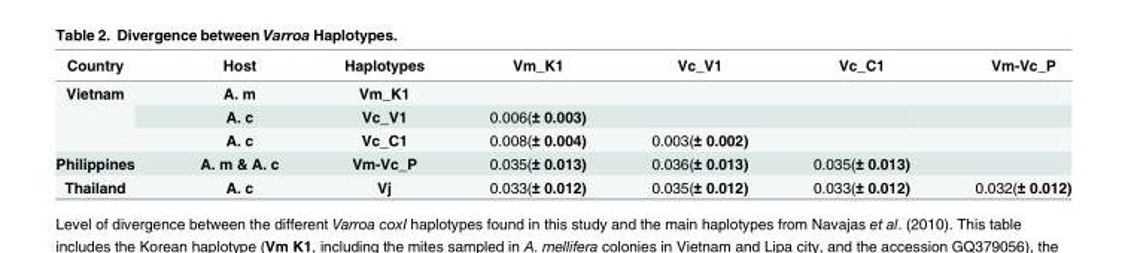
<table><thead><tr><td>Country</td><td>Host</td><td>Haplotypes</td><td>Vm_K1</td><td>Vc_V1</td><td>Vc_C1</td><td>Vm-Vc_P</td></tr></thead><tbody><tr><td rowspan="3">Vietnam</td><td>A. m</td><td>Vm_K1</td><td></td><td></td><td></td><td></td></tr><tr><td>A. c</td><td>Vc_V1</td><td>0.006(± 0.003)</td><td></td><td></td><td></td></tr><tr><td>A. c</td><td>Vc_C1</td><td>0.008(± 0.004)</td><td>0.003(± 0.002)</td><td></td><td></td></tr><tr><td>Philippines</td><td>A. m &amp; A. c</td><td>Vm-Vc_P</td><td>0.035(± 0.013)</td><td>0.036(± 0.013)</td><td>0.035(± 0.013)</td><td></td></tr><tr><td>Thailand</td><td>A. c</td><td>Vj</td><td>0.033(± 0.012)</td><td>0.035(± 0.012)</td><td>0.033(± 0.012)</td><td>0.032(± 0.012)</td></tr></tbody></table>